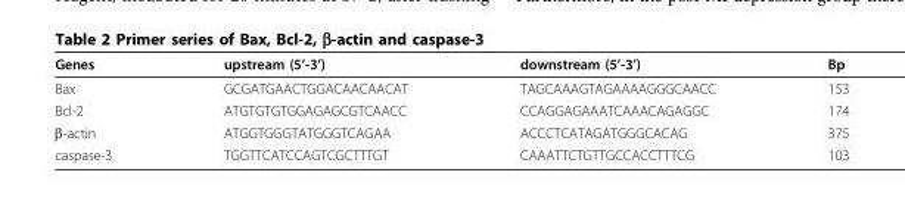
<table><thead><tr><td>Genes</td><td>upstream (5’-3’)</td><td>downstream (5’-3’)</td><td>Bp</td></tr></thead><tbody><tr><td>Bax</td><td>GCGATGAACTGGACAACAACAT</td><td>TAGCAAAGTAGAAAAGGGCAACC</td><td>153</td></tr><tr><td>Bcl-2</td><td>ATGTGTGTGGAGAGCGTCAACC</td><td>CCAGGAGAAATCAAACAGAGGC</td><td>174</td></tr><tr><td>β-actin</td><td>ATGGTGGGTATGGGTCAGAA</td><td>ACCCTCATAGATGGGCACAG</td><td>375</td></tr><tr><td>caspase-3</td><td>TGGTTCATCCAGTCGCTTTGT</td><td>CAAATTCTGTTGCCACCTTTCG</td><td>103</td></tr></tbody></table>